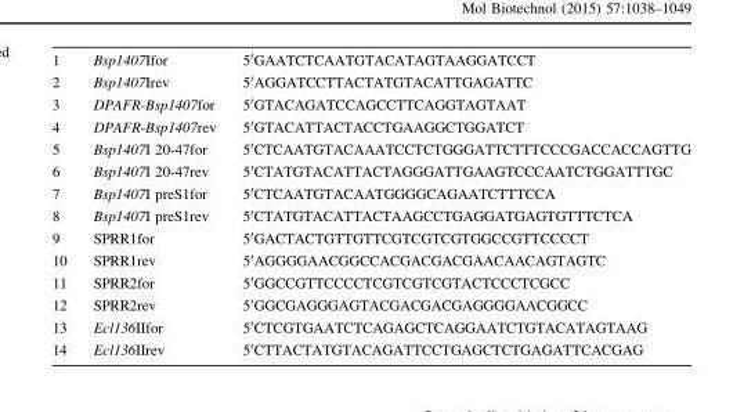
<table><tbody><tr><td>1</td><td>Bsp1407Ifor</td><td>5′GAATCTCAATGTACATAGTAAGGATCCT</td></tr><tr><td>2</td><td>Bsp1407Irev</td><td>5′AGGATCCTTACTATGTACATTGAGATTC</td></tr><tr><td>3</td><td>DPAFR-Bsp1407for</td><td>5′GTACAGATCCAGCCTTCAGGTAGTAAT</td></tr><tr><td>4</td><td>DPAFR-Bsp1407rev</td><td>5′GTACATTACTACCTGAAGGCTGGATCT</td></tr><tr><td>5</td><td>Bsp1407I 20-47for</td><td>5′CTCAATGTACAAATCCTCTGGGATTCTTTCCCGACCACCAGTTG</td></tr><tr><td>6</td><td>Bsp1407I 20-47rev</td><td>5′CTATGTACATTACTAGGGATTGAAGTCCCAATCTGGATTTGC</td></tr><tr><td>7</td><td>Bsp1407I preS1for</td><td>5′CTCAATGTACAATGGGGCAGAATCTTTCCA</td></tr><tr><td>8</td><td>Bsp1407I preS1rev</td><td>5′CTATGTACATTACTAAGCCTGAGGATGAGTGTTTCTCA</td></tr><tr><td>9</td><td>SPRR1for</td><td>5′GACTACTGTTGTTCGTCGTCGTGGCCGTTCCCCT</td></tr><tr><td>10</td><td>SPRR1rev</td><td>5′AGGGGAACGGCCACGACGACGAACAACAGTAGTC</td></tr><tr><td>11</td><td>SPRR2for</td><td>5′GGCCGTTCCCCTCGTCGTCGTACTCCCTCGCC</td></tr><tr><td>12</td><td>SPRR2rev</td><td>5′GGCGAGGGAGTACGACGACGAGGGGAACGGCC</td></tr><tr><td>13</td><td>Ecl136IIfor</td><td>5′CTCGTGAATCTCAGAGCTCAGGAATCTGTACATAGTAAG</td></tr><tr><td>14</td><td>Ecl136IIrev</td><td>5′CTTACTATGTACAGATTCCTGAGCTCTGAGATTCACGAG</td></tr></tbody></table>